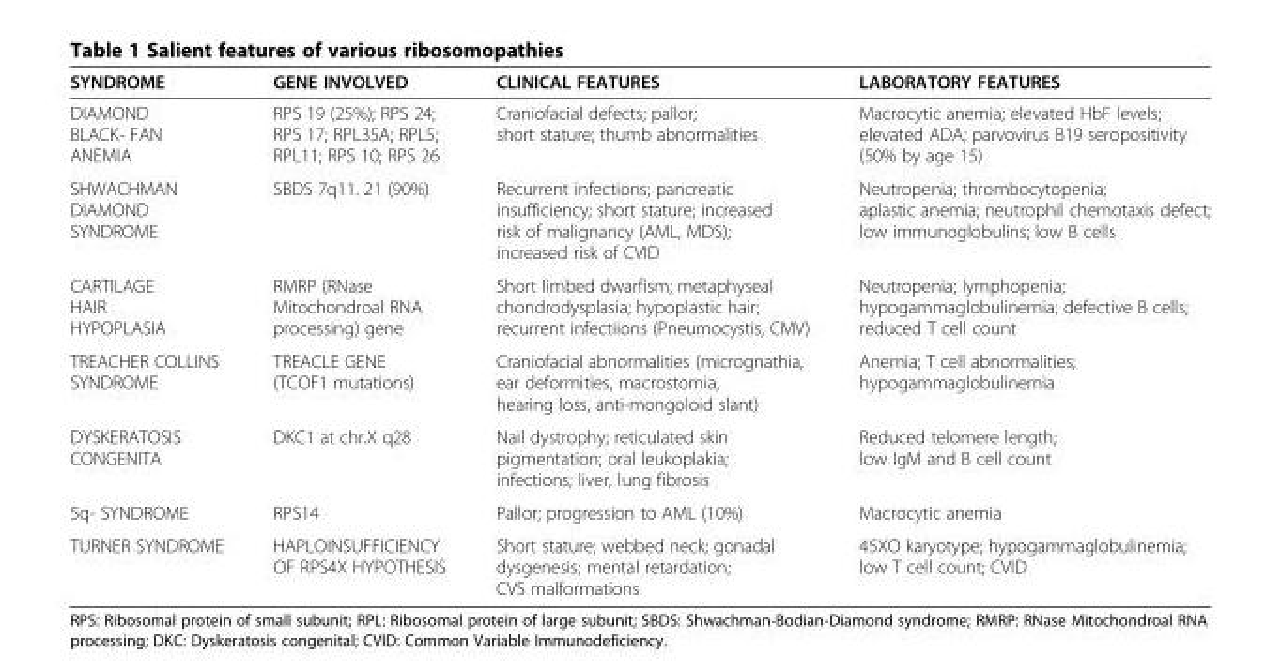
<table><thead><tr><td>SYNDROME</td><td>GENE INVOLVED</td><td>CLINICAL FEATURES</td><td>LABORATORY FEATURES</td></tr></thead><tbody><tr><td>DIAMOND BLACK- FAN ANEMIA</td><td>RPS 19 (25%); RPS 24; RPS 17; RPL35A; RPL5; RPL11; RPS 10; RPS 26</td><td>Craniofacial defects; pallor; short stature; thumb abnormalities</td><td>Macrocytic anemia; elevated HbF levels; elevated ADA; parvovirus B19 seropositivity (50% by age 15)</td></tr><tr><td>SHWACHMAN DIAMOND SYNDROME</td><td>SBDS 7q11. 21 (90%)</td><td>Recurrent infections; pancreatic insufficiency; short stature; increased risk of malignancy (AML, MDS); increased risk of CVID</td><td>Neutropenia; thrombocytopenia; aplastic anemia; neutrophil chemotaxis defect; low immunoglobulins; low B cells</td></tr><tr><td>CARTILAGE HAIR HYPOPLASIA</td><td>RMRP (RNase Mitochondroal RNA processing) gene</td><td>Short limbed dwarfism; metaphyseal chondrodysplasia; hypoplastic hair; recurrent infectiions (Pneumocystis, CMV)</td><td>Neutropenia; lymphopenia; hypogammaglobulinemia; defective B cells; reduced T cell count</td></tr><tr><td>TREACHER COLLINS SYNDROME</td><td>TREACLE GENE (TCOF1 mutations)</td><td>Craniofacial abnormalities (micrognathia, ear deformities, macrostomia, hearing loss, anti-mongoloid slant)</td><td>Anemia; T cell abnormalities; hypogammaglobulinemia</td></tr><tr><td>DYSKERATOSIS CONGENITA</td><td>DKC1 at chr.X q28</td><td>Nail dystrophy; reticulated skin pigmentation; oral leukoplakia; infections; liver, lung fibrosis</td><td>Reduced telomere length; low IgM and B cell count</td></tr><tr><td>5q- SYNDROME</td><td>RPS14</td><td>Pallor; progression to AML (10%)</td><td>Macrocytic anemia</td></tr><tr><td>TURNER SYNDROME</td><td>HAPLOINSUFFICIENCY OF RPS4X HYPOTHESIS</td><td>Short stature; webbed neck; gonadal dysgenesis; mental retardation; CVS malformations</td><td>45XO karyotype; hypogammaglobulinemia; low T cell count; CVID</td></tr></tbody></table>